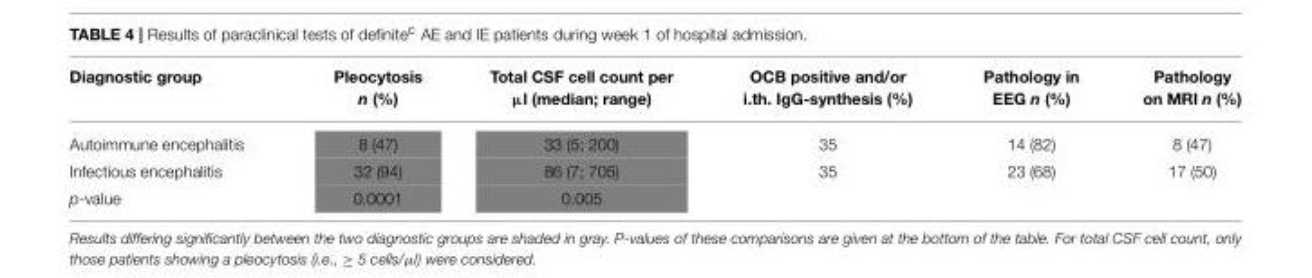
<table><thead><tr><td>Diagnostic group</td><td>Pleocytosis n (%)</td><td>Total CSF cell count per µl (median; range)</td><td>OCB positive and/or i.th. IgG-synthesis (%)</td><td>Pathology in EEG n (%)</td><td>Pathology on MRI n (%)</td></tr></thead><tbody><tr><td>Autoimmune encephalitis</td><td>8 (47)</td><td>33 (5; 200)</td><td>35</td><td>14 (82)</td><td>8 (47)</td></tr><tr><td>Infectious encephalitis</td><td>32 (94)</td><td>86 (7; 705)</td><td>35</td><td>23 (68)</td><td>17 (50)</td></tr><tr><td>p-value</td><td>0.0001</td><td>0.005</td><td></td><td></td><td></td></tr></tbody></table>